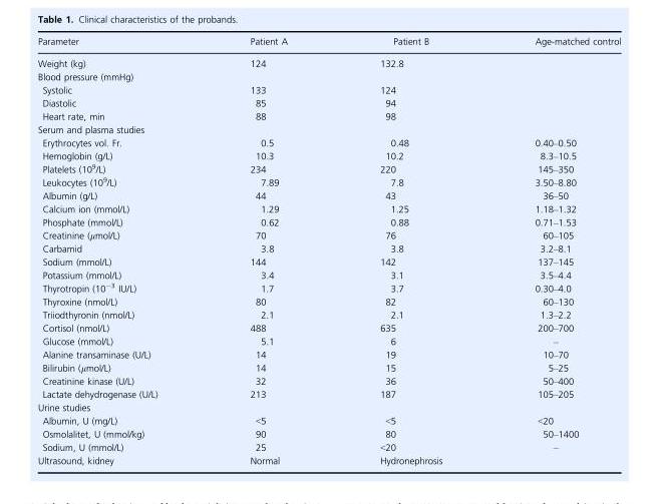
<table><thead><tr><td>Parameter</td><td>Patient A</td><td>Patient B</td><td>Age-matched control</td></tr></thead><tbody><tr><td>Weight (kg)</td><td>124</td><td>132.8</td><td></td></tr><tr><td colspan="4">Blood pressure (mmHg)</td></tr><tr><td>Systolic</td><td>133</td><td>124</td><td></td></tr><tr><td>Diastolic</td><td>85</td><td>94</td><td></td></tr><tr><td>Heart rate, min</td><td>88</td><td>98</td><td></td></tr><tr><td colspan="4">Serum and plasma studies</td></tr><tr><td>Erythrocytes vol. Fr.</td><td>0.5</td><td>0.48</td><td>0.40–0.50</td></tr><tr><td>Hemoglobin (g/L)</td><td>10.3</td><td>10.2</td><td>8.3–10.5</td></tr><tr><td>Platelets (10<sup>9</sup>/L)</td><td>234</td><td>220</td><td>145–350</td></tr><tr><td>Leukocytes (10<sup>9</sup>/L)</td><td>7.89</td><td>7.8</td><td>3.50–8.80</td></tr><tr><td>Albumin (g/L)</td><td>44</td><td>43</td><td>36–50</td></tr><tr><td>Calcium ion (mmol/L)</td><td>1.29</td><td>1.25</td><td>1.18–1.32</td></tr><tr><td>Phosphate (mmol/L)</td><td>0.62</td><td>0.88</td><td>0.71–1.53</td></tr><tr><td>Creatinine (μmol/L)</td><td>70</td><td>76</td><td>60–105</td></tr><tr><td>Carbamid</td><td>3.8</td><td>3.8</td><td>3.2–8.1</td></tr><tr><td>Sodium (mmol/L)</td><td>144</td><td>142</td><td>137–145</td></tr><tr><td>Potassium (mmol/L)</td><td>3.4</td><td>3.1</td><td>3.5–4.4</td></tr><tr><td>Thyrotropin (10<sup>−3</sup> IU/L)</td><td>1.7</td><td>3.7</td><td>0.30–4.0</td></tr><tr><td>Thyroxine (nmol/L)</td><td>80</td><td>82</td><td>60–130</td></tr><tr><td>Triiodthyronin (nmol/L)</td><td>2.1</td><td>2.1</td><td>1.3–2.2</td></tr><tr><td>Cortisol (nmol/L)</td><td>488</td><td>635</td><td>200–700</td></tr><tr><td>Glucose (mmol/L)</td><td>5.1</td><td>6</td><td>–</td></tr><tr><td>Alanine transaminase (U/L)</td><td>14</td><td>19</td><td>10–70</td></tr><tr><td>Bilirubin (μmol/L)</td><td>14</td><td>15</td><td>5–25</td></tr><tr><td>Creatinine kinase (U/L)</td><td>32</td><td>36</td><td>50–400</td></tr><tr><td>Lactate dehydrogenase (U/L)</td><td>213</td><td>187</td><td>105–205</td></tr><tr><td colspan="4">Urine studies</td></tr><tr><td>Albumin, U (mg/L)</td><td>&lt;5</td><td>&lt;5</td><td>&lt;20</td></tr><tr><td>Osmolalitet, U (mmol/kg)</td><td>90</td><td>80</td><td>50–1400</td></tr><tr><td>Sodium, U (mmol/L)</td><td>25</td><td>&lt;20</td><td>–</td></tr><tr><td>Ultrasound, kidney</td><td>Normal</td><td>Hydronephrosis</td><td></td></tr></tbody></table>